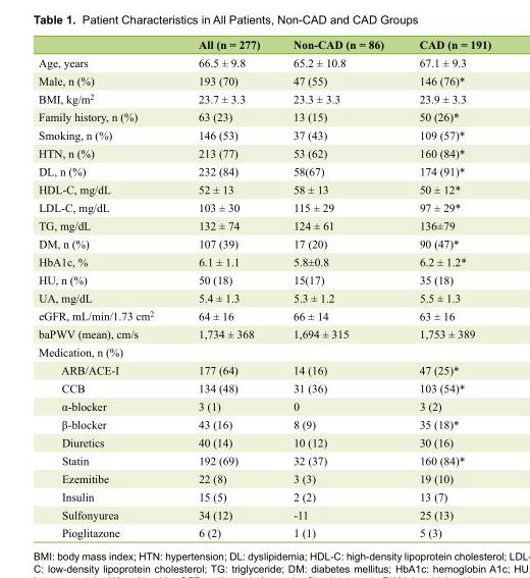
<table><thead><tr><td></td><td>All (n = 277)</td><td>Non-CAD (n = 86)</td><td>CAD (n = 191)</td></tr></thead><tbody><tr><td>Age, years</td><td>66.5 ± 9.8</td><td>65.2 ± 10.8</td><td>67.1 ± 9.3</td></tr><tr><td>Male, n (%)</td><td>193 (70)</td><td>47 (55)</td><td>146 (76)*</td></tr><tr><td>BMI, kg/m<sup>2</sup></td><td>23.7 ± 3.3</td><td>23.3 ± 3.3</td><td>23.9 ± 3.3</td></tr><tr><td>Family history, n (%)</td><td>63 (23)</td><td>13 (15)</td><td>50 (26)*</td></tr><tr><td>Smoking, n (%)</td><td>146 (53)</td><td>37 (43)</td><td>109 (57)*</td></tr><tr><td>HTN, n (%)</td><td>213 (77)</td><td>53 (62)</td><td>160 (84)*</td></tr><tr><td>DL, n (%)</td><td>232 (84)</td><td>58(67)</td><td>174 (91)*</td></tr><tr><td>HDL-C, mg/dL</td><td>52 ± 13</td><td>58 ± 13</td><td>50 ± 12*</td></tr><tr><td>LDL-C, mg/dL</td><td>103 ± 30</td><td>115 ± 29</td><td>97 ± 29*</td></tr><tr><td>TG, mg/dL</td><td>132 ± 74</td><td>124 ± 61</td><td>136±79</td></tr><tr><td>DM, n (%)</td><td>107 (39)</td><td>17 (20)</td><td>90 (47)*</td></tr><tr><td>HbA1c, %</td><td>6.1 ± 1.1</td><td>5.8±0.8</td><td>6.2 ± 1.2*</td></tr><tr><td>HU, n (%)</td><td>50 (18)</td><td>15(17)</td><td>35 (18)</td></tr><tr><td>UA, mg/dL</td><td>5.4 ± 1.3</td><td>5.3 ± 1.2</td><td>5.5 ± 1.3</td></tr><tr><td>eGFR, mL/min/1.73 cm<sup>2</sup></td><td>64 ± 16</td><td>66 ± 14</td><td>63 ± 16</td></tr><tr><td>baPWV (mean), cm/s</td><td>1,734 ± 368</td><td>1,694 ± 315</td><td>1,753 ± 389</td></tr><tr><td colspan="4">Medication, n (%)</td></tr><tr><td>ARB/ACE-I</td><td>177 (64)</td><td>14 (16)</td><td>47 (25)*</td></tr><tr><td>CCB</td><td>134 (48)</td><td>31 (36)</td><td>103 (54)*</td></tr><tr><td>α-blocker</td><td>3 (1)</td><td>0</td><td>3 (2)</td></tr><tr><td>β-blocker</td><td>43 (16)</td><td>8 (9)</td><td>35 (18)*</td></tr><tr><td>Diuretics</td><td>40 (14)</td><td>10 (12)</td><td>30 (16)</td></tr><tr><td>Statin</td><td>192 (69)</td><td>32 (37)</td><td>160 (84)*</td></tr><tr><td>Ezemitibe</td><td>22 (8)</td><td>3 (3)</td><td>19 (10)</td></tr><tr><td>Insulin</td><td>15 (5)</td><td>2 (2)</td><td>13 (7)</td></tr><tr><td>Sulfonyurea</td><td>34 (12)</td><td>-11</td><td>25 (13)</td></tr><tr><td>Pioglitazone</td><td>6 (2)</td><td>1 (1)</td><td>5 (3)</td></tr></tbody></table>